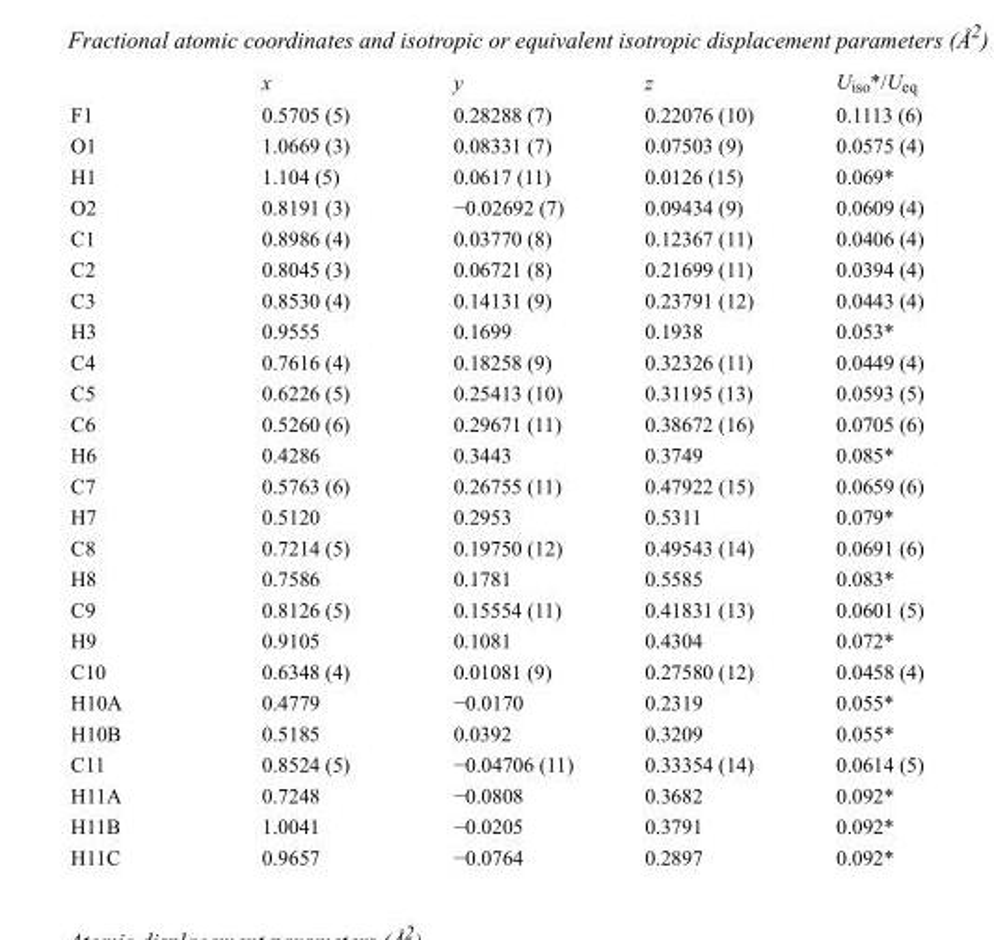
<table><thead><tr><td></td><td>x</td><td>y</td><td>z</td><td>U<sub>iso</sub>*/U<sub>eq</sub></td></tr></thead><tbody><tr><td>F1</td><td>0.5705 (5)</td><td>0.28288 (7)</td><td>0.22076 (10)</td><td>0.1113 (6)</td></tr><tr><td>O1</td><td>1.0669 (3)</td><td>0.08331 (7)</td><td>0.07503 (9)</td><td>0.0575 (4)</td></tr><tr><td>H1</td><td>1.104 (5)</td><td>0.0617 (11)</td><td>0.0126 (15)</td><td>0.069*</td></tr><tr><td>O2</td><td>0.8191 (3)</td><td>−0.02692 (7)</td><td>0.09434 (9)</td><td>0.0609 (4)</td></tr><tr><td>C1</td><td>0.8986 (4)</td><td>0.03770 (8)</td><td>0.12367 (11)</td><td>0.0406 (4)</td></tr><tr><td>C2</td><td>0.8045 (3)</td><td>0.06721 (8)</td><td>0.21699 (11)</td><td>0.0394 (4)</td></tr><tr><td>C3</td><td>0.8530 (4)</td><td>0.14131 (9)</td><td>0.23791 (12)</td><td>0.0443 (4)</td></tr><tr><td>H3</td><td>0.9555</td><td>0.1699</td><td>0.1938</td><td>0.053*</td></tr><tr><td>C4</td><td>0.7616 (4)</td><td>0.18258 (9)</td><td>0.32326 (11)</td><td>0.0449 (4)</td></tr><tr><td>C5</td><td>0.6226 (5)</td><td>0.25413 (10)</td><td>0.31195 (13)</td><td>0.0593 (5)</td></tr><tr><td>C6</td><td>0.5260 (6)</td><td>0.29671 (11)</td><td>0.38672 (16)</td><td>0.0705 (6)</td></tr><tr><td>H6</td><td>0.4286</td><td>0.3443</td><td>0.3749</td><td>0.085*</td></tr><tr><td>C7</td><td>0.5763 (6)</td><td>0.26755 (11)</td><td>0.47922 (15)</td><td>0.0659 (6)</td></tr><tr><td>H7</td><td>0.5120</td><td>0.2953</td><td>0.5311</td><td>0.079*</td></tr><tr><td>C8</td><td>0.7214 (5)</td><td>0.19750 (12)</td><td>0.49543 (14)</td><td>0.0691 (6)</td></tr><tr><td>H8</td><td>0.7586</td><td>0.1781</td><td>0.5585</td><td>0.083*</td></tr><tr><td>C9</td><td>0.8126 (5)</td><td>0.15554 (11)</td><td>0.41831 (13)</td><td>0.0601 (5)</td></tr><tr><td>H9</td><td>0.9105</td><td>0.1081</td><td>0.4304</td><td>0.072*</td></tr><tr><td>C10</td><td>0.6348 (4)</td><td>0.01081 (9)</td><td>0.27580 (12)</td><td>0.0458 (4)</td></tr><tr><td>H10A</td><td>0.4779</td><td>−0.0170</td><td>0.2319</td><td>0.055*</td></tr><tr><td>H10B</td><td>0.5185</td><td>0.0392</td><td>0.3209</td><td>0.055*</td></tr><tr><td>C11</td><td>0.8524 (5)</td><td>−0.04706 (11)</td><td>0.33354 (14)</td><td>0.0614 (5)</td></tr><tr><td>H11A</td><td>0.7248</td><td>−0.0808</td><td>0.3682</td><td>0.092*</td></tr><tr><td>H11B</td><td>1.0041</td><td>−0.0205</td><td>0.3791</td><td>0.092*</td></tr><tr><td>H11C</td><td>0.9657</td><td>−0.0764</td><td>0.2897</td><td>0.092*</td></tr></tbody></table>